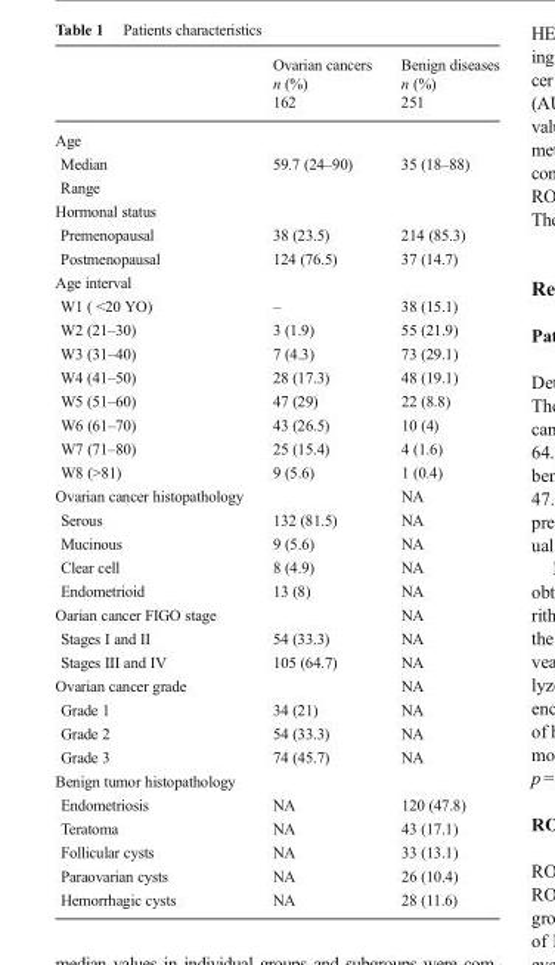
<table><thead><tr><td rowspan="2"></td><td rowspan="2">Ovarian cancers n (%) 162</td><td rowspan="2">Benign diseases n (%) 251</td></tr><tr></tr></thead><tbody><tr><td colspan="3">Age</td></tr><tr><td>Median</td><td>59.7 (24–90)</td><td>35 (18–88)</td></tr><tr><td colspan="3">Range</td></tr><tr><td colspan="3">Hormonal status</td></tr><tr><td>Premenopausal</td><td>38 (23.5)</td><td>214 (85.3)</td></tr><tr><td>Postmenopausal</td><td>124 (76.5)</td><td>37 (14.7)</td></tr><tr><td colspan="3">Age interval</td></tr><tr><td>W1 ( &lt;20 YO)</td><td>–</td><td>38 (15.1)</td></tr><tr><td>W2 (21–30)</td><td>3 (1.9)</td><td>55 (21.9)</td></tr><tr><td>W3 (31–40)</td><td>7 (4.3)</td><td>73 (29.1)</td></tr><tr><td>W4 (41–50)</td><td>28 (17.3)</td><td>48 (19.1)</td></tr><tr><td>W5 (51–60)</td><td>47 (29)</td><td>22 (8.8)</td></tr><tr><td>W6 (61–70)</td><td>43 (26.5)</td><td>10 (4)</td></tr><tr><td>W7 (71–80)</td><td>25 (15.4)</td><td>4 (1.6)</td></tr><tr><td>W8 (&gt;81)</td><td>9 (5.6)</td><td>1 (0.4)</td></tr><tr><td>Ovarian cancer histopathology</td><td></td><td>NA</td></tr><tr><td>Serous</td><td>132 (81.5)</td><td>NA</td></tr><tr><td>Mucinous</td><td>9 (5.6)</td><td>NA</td></tr><tr><td>Clear cell</td><td>8 (4.9)</td><td>NA</td></tr><tr><td>Endometrioid</td><td>13 (8)</td><td>NA</td></tr><tr><td>Oarian cancer FIGO stage</td><td></td><td>NA</td></tr><tr><td>Stages I and II</td><td>54 (33.3)</td><td>NA</td></tr><tr><td>Stages III and IV</td><td>105 (64.7)</td><td>NA</td></tr><tr><td>Ovarian cancer grade</td><td></td><td>NA</td></tr><tr><td>Grade 1</td><td>34 (21)</td><td>NA</td></tr><tr><td>Grade 2</td><td>54 (33.3)</td><td>NA</td></tr><tr><td>Grade 3</td><td>74 (45.7)</td><td>NA</td></tr><tr><td colspan="3">Benign tumor histopathology</td></tr><tr><td>Endometriosis</td><td>NA</td><td>120 (47.8)</td></tr><tr><td>Teratoma</td><td>NA</td><td>43 (17.1)</td></tr><tr><td>Follicular cysts</td><td>NA</td><td>33 (13.1)</td></tr><tr><td>Paraovarian cysts</td><td>NA</td><td>26 (10.4)</td></tr><tr><td>Hemorrhagic cysts</td><td>NA</td><td>28 (11.6)</td></tr></tbody></table>